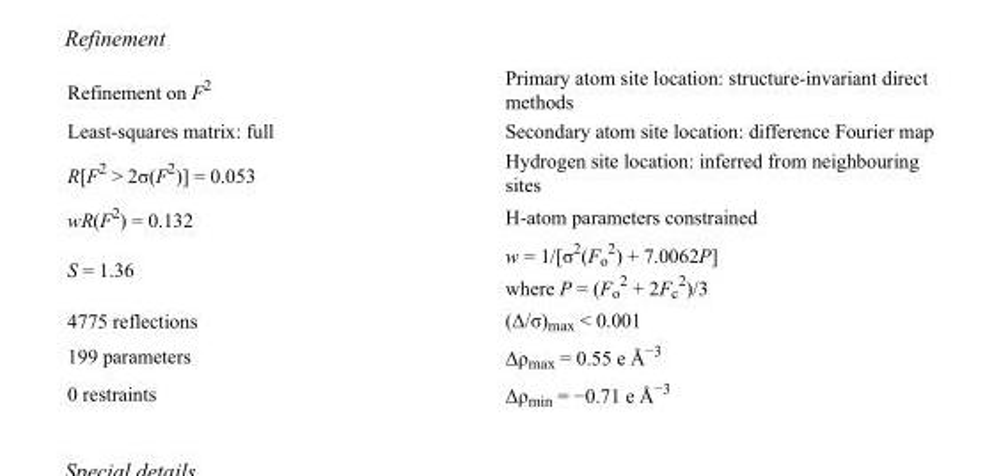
<table><tbody><tr><td>Refinement on F<sup>2</sup></td><td>Primary atom site location: structure-invariant direct methods</td></tr><tr><td>Least-squares matrix: full</td><td>Secondary atom site location: difference Fourier map</td></tr><tr><td>R[F<sup>2</sup> &gt; 2σ(F<sup>2</sup>)] = 0.053</td><td>Hydrogen site location: inferred from neighbouring sites</td></tr><tr><td>wR(F<sup>2</sup>) = 0.132</td><td>H-atom parameters constrained</td></tr><tr><td>S = 1.36</td><td>w = 1/[σ<sup>2</sup>(F<sub>o</sub> <sup>2</sup>) + 7.0062P] where P = (F<sub>o</sub> <sup>2</sup> + 2F<sub>c</sub> <sup>2</sup>)/3</td></tr><tr><td>4775 reflections</td><td>(Δ/σ)<sub>max</sub> &lt; 0.001</td></tr><tr><td>199 parameters</td><td>Δρ<sub>max</sub> = 0.55 e Å<sup>−3</sup></td></tr><tr><td>0 restraints</td><td>Δρ<sub>min</sub> = −0.71 e Å<sup>−3</sup></td></tr></tbody></table>